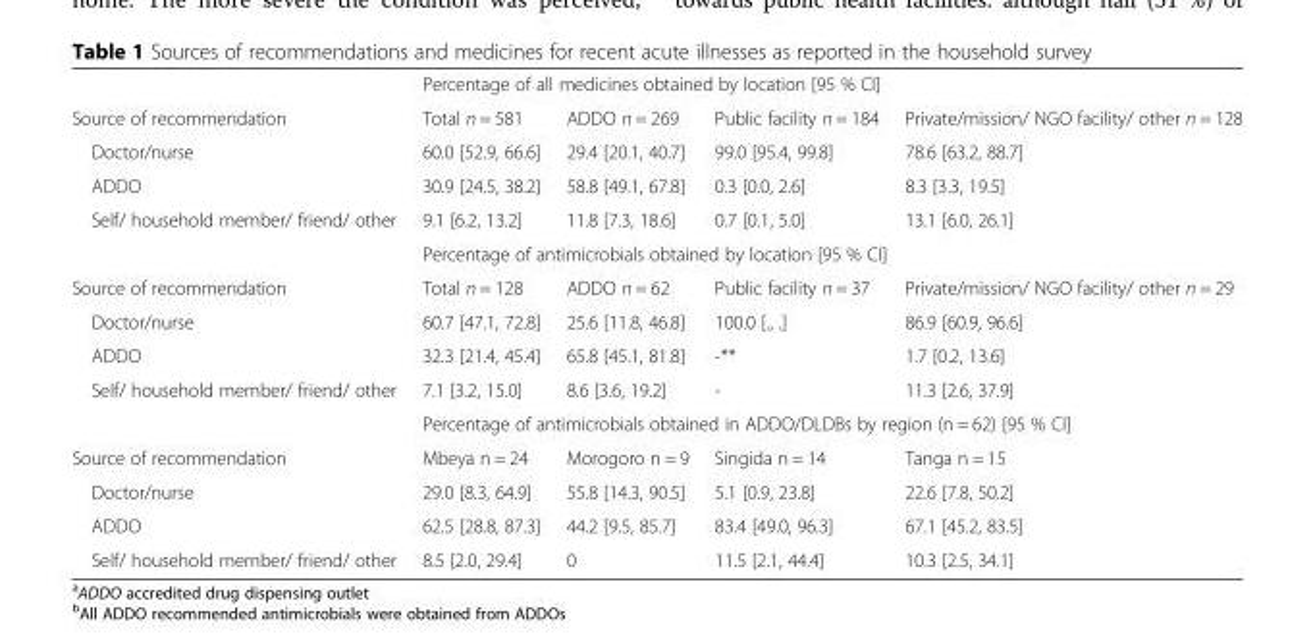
<table><thead><tr><td rowspan="2">Source of recommendation</td><td colspan="4">Percentage of all medicines obtained by location [95 % CI]</td></tr><tr><td>Total n = 581</td><td>ADDO n = 269</td><td>Public facility n = 184</td><td>Private/mission/ NGO facility/ other n = 128</td></tr></thead><tbody><tr><td>Doctor/nurse</td><td>60.0 [52.9, 66.6]</td><td>29.4 [20.1, 40.7]</td><td>99.0 [95.4, 99.8]</td><td>78.6 [63.2, 88.7]</td></tr><tr><td>ADDO</td><td>30.9 [24.5, 38.2]</td><td>58.8 [49.1, 67.8]</td><td>0.3 [0.0, 2.6]</td><td>8.3 [3.3, 19.5]</td></tr><tr><td rowspan="2">Self/ household member/ friend/ other</td><td>9.1 [6.2, 13.2]</td><td>11.8 [7.3, 18.6]</td><td>0.7 [0.1, 5.0]</td><td>13.1 [6.0, 26.1]</td></tr><tr><td colspan="4">Percentage of antimicrobials obtained by location [95 % CI]</td></tr><tr><td>Source of recommendation</td><td>Total n = 128</td><td>ADDO n = 62</td><td>Public facility n = 37</td><td>Private/mission/ NGO facility/ other n = 29</td></tr><tr><td>Doctor/nurse</td><td>60.7 [47.1, 72.8]</td><td>25.6 [11.8, 46.8]</td><td>100.0 [., .]</td><td>86.9 [60.9, 96.6]</td></tr><tr><td>ADDO</td><td>32.3 [21.4, 45.4]</td><td>65.8 [45.1, 81.8]</td><td>-**</td><td>1.7 [0.2, 13.6]</td></tr><tr><td rowspan="2">Self/ household member/ friend/ other</td><td>7.1 [3.2, 15.0]</td><td>8.6 [3.6, 19.2]</td><td>-</td><td>11.3 [2.6, 37.9]</td></tr><tr><td colspan="4">Percentage of antimicrobials obtained in ADDO/DLDBs by region (n = 62) [95 % CI]</td></tr><tr><td>Source of recommendation</td><td>Mbeya n = 24</td><td>Morogoro n = 9</td><td>Singida n = 14</td><td>Tanga n = 15</td></tr><tr><td>Doctor/nurse</td><td>29.0 [8.3, 64.9]</td><td>55.8 [14.3, 90.5]</td><td>5.1 [0.9, 23.8]</td><td>22.6 [7.8, 50.2]</td></tr><tr><td>ADDO</td><td>62.5 [28.8, 87.3]</td><td>44.2 [9.5, 85.7]</td><td>83.4 [49.0, 96.3]</td><td>67.1 [45.2, 83.5]</td></tr><tr><td>Self/ household member/ friend/ other</td><td>8.5 [2.0, 29.4]</td><td>0</td><td>11.5 [2.1, 44.4]</td><td>10.3 [2.5, 34.1]</td></tr></tbody></table>